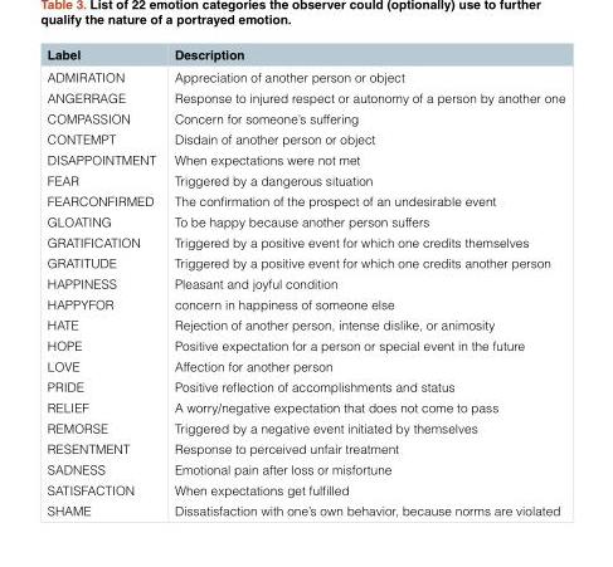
<table><thead><tr><td>Label</td><td>Description</td></tr></thead><tbody><tr><td>ADMIRATION ANGERRAGE COMPASSION CONTEMPT DISAPPOINTMENT FEAR FEARCONFIRMED GLOATING GRATIFICATION GRATITUDE HAPPINESS HAPPYFOR HATE HOPE LOVE PRIDE RELIEF REMORSE RESENTMENT SADNESS SATISFACTION SHAME</td><td>Appreciation of another person or object Response to injured respect or autonomy of a person by another one Concern for someone’s suffering Disdain of another person or object When expectations were not met Triggered by a dangerous situation The confirmation of the prospect of an undesirable event To be happy because another person suffers Triggered by a positive event for which one credits themselves Triggered by a positive event for which one credits another person Pleasant and joyful condition concern in happiness of someone else Rejection of another person, intense dislike, or animosity Positive expectation for a person or special event in the future Affection for another person Positive reflection of accomplishments and status A worry/negative expectation that does not come to pass Triggered by a negative event initiated by themselves Response to perceived unfair treatment Emotional pain after loss or misfortune When expectations get fulfilled Dissatisfaction with one’s own behavior, because norms are violated</td></tr></tbody></table>